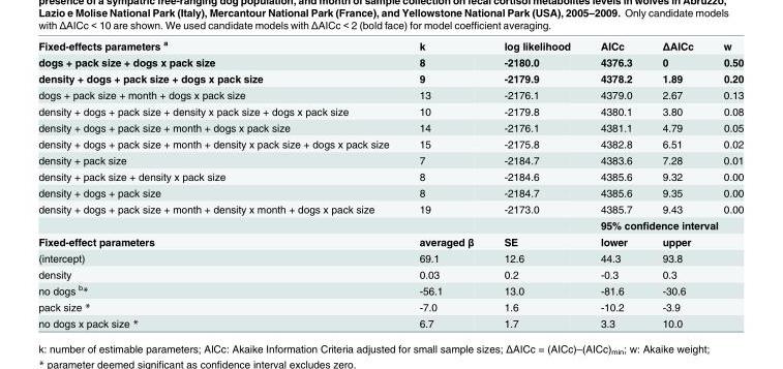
<table><tbody><tr><td>Fixed-effects parameters <sup>a</sup></td><td>k</td><td>log likelihood</td><td>AICc</td><td>ΔAICc</td><td>w</td></tr><tr><td>dogs + pack size + dogs x pack size</td><td>8</td><td>-2180.0</td><td>4376.3</td><td>0</td><td>0.50</td></tr><tr><td>density + dogs + pack size + dogs x pack size</td><td>9</td><td>-2179.9</td><td>4378.2</td><td>1.89</td><td>0.20</td></tr><tr><td>dogs + pack size + month + dogs x pack size</td><td>13</td><td>-2176.1</td><td>4379.0</td><td>2.67</td><td>0.13</td></tr><tr><td>density + dogs + pack size + density x pack size + dogs x pack size</td><td>10</td><td>-2179.8</td><td>4380.1</td><td>3.80</td><td>0.08</td></tr><tr><td>density + dogs + pack size + month + dogs x pack size</td><td>14</td><td>-2176.1</td><td>4381.1</td><td>4.79</td><td>0.05</td></tr><tr><td>density + dogs + pack size + month + density x pack size + dogs x pack size</td><td>15</td><td>-2175.8</td><td>4382.8</td><td>6.51</td><td>0.02</td></tr><tr><td>density + pack size</td><td>7</td><td>-2184.7</td><td>4383.6</td><td>7.28</td><td>0.01</td></tr><tr><td>density + pack size + density x pack size</td><td>8</td><td>-2184.6</td><td>4385.6</td><td>9.32</td><td>0.00</td></tr><tr><td>density + dogs + pack size</td><td>8</td><td>-2184.7</td><td>4385.6</td><td>9.35</td><td>0.00</td></tr><tr><td rowspan="2">density + dogs + pack size + month + density x month + dogs x pack size</td><td>19</td><td>-2173.0</td><td>4385.7</td><td>9.43</td><td>0.00</td></tr><tr><td></td><td></td><td colspan="3">95% confidence interval</td></tr><tr><td>Fixed-effect parameters</td><td>averaged β</td><td>SE</td><td>lower</td><td colspan="2">upper</td></tr><tr><td>(intercept)</td><td>69.1</td><td>12.6</td><td>44.3</td><td colspan="2">93.8</td></tr><tr><td>density</td><td>0.03</td><td>0.2</td><td>-0.3</td><td colspan="2">0.3</td></tr><tr><td>no dogs <sup>b</sup>*</td><td>-56.1</td><td>13.0</td><td>-81.6</td><td colspan="2">-30.6</td></tr><tr><td>pack size *</td><td>-7.0</td><td>1.6</td><td>-10.2</td><td colspan="2">-3.9</td></tr><tr><td>no dogs x pack size *</td><td>6.7</td><td>1.7</td><td>3.3</td><td colspan="2">10.0</td></tr></tbody></table>